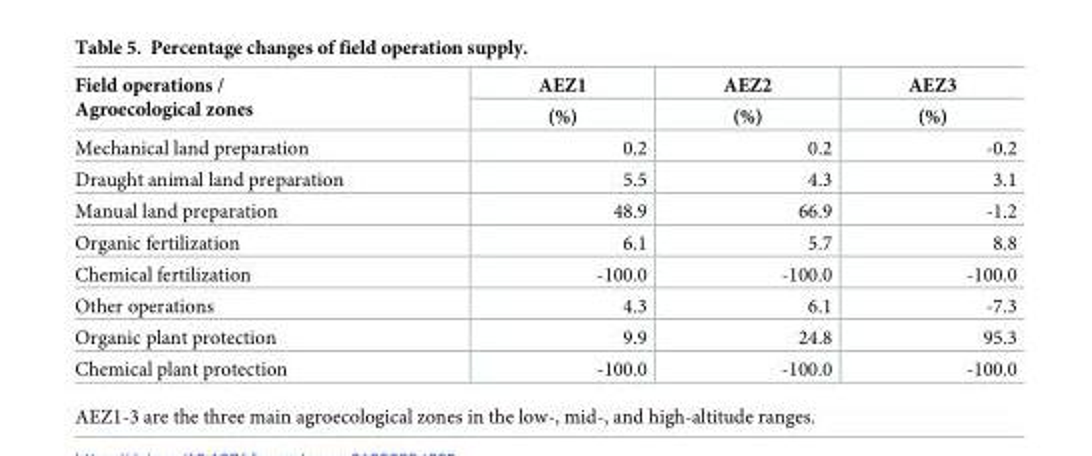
<table><thead><tr><td rowspan="2">Field operations / Agroecological zones</td><td rowspan="2">AEZ1 (%)</td><td rowspan="2">AEZ2 (%)</td><td rowspan="2">AEZ3 (%)</td></tr><tr></tr></thead><tbody><tr><td>Mechanical land preparation</td><td>0.2</td><td>0.2</td><td>-0.2</td></tr><tr><td>Draught animal land preparation</td><td>5.5</td><td>4.3</td><td>3.1</td></tr><tr><td>Manual land preparation</td><td>48.9</td><td>66.9</td><td>-1.2</td></tr><tr><td>Organic fertilization</td><td>6.1</td><td>5.7</td><td>8.8</td></tr><tr><td>Chemical fertilization</td><td>-100.0</td><td>-100.0</td><td>-100.0</td></tr><tr><td>Other operations</td><td>4.3</td><td>6.1</td><td>-7.3</td></tr><tr><td>Organic plant protection</td><td>9.9</td><td>24.8</td><td>95.3</td></tr><tr><td>Chemical plant protection</td><td>-100.0</td><td>-100.0</td><td>-100.0</td></tr></tbody></table>